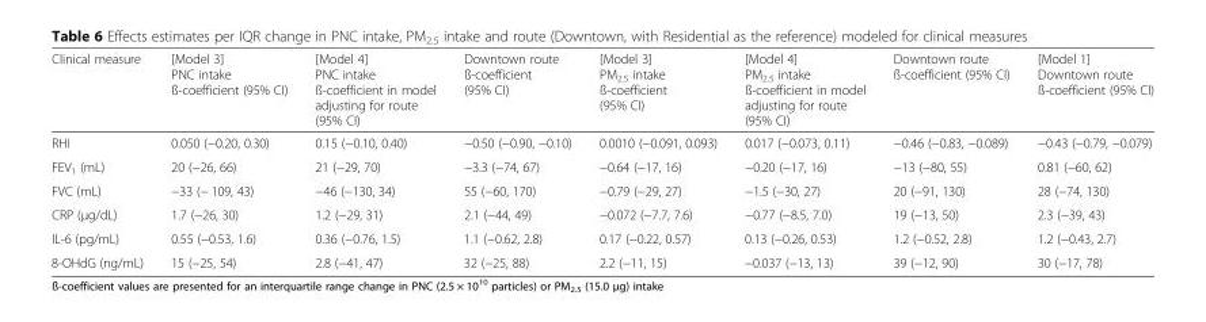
<table><thead><tr><td>Clinical measure</td><td>[Model 3] PNC intake ß-coefficient (95% CI)</td><td>[Model 4] PNC intake ß-coefficient in model adjusting for route (95% CI)</td><td>Downtown route ß-coefficient (95% CI)</td><td>[Model 3] PM<sub>2.5</sub> intake ß-coefficient (95% CI)</td><td>[Model 4] PM<sub>2.5</sub> intake ß-coefficient in model adjusting for route (95% CI)</td><td>Downtown route ß-coefficient (95% CI)</td><td>[Model 1] Downtown route ß-coefficient (95% CI)</td></tr></thead><tbody><tr><td>RHI</td><td>0.050 (−0.20, 0.30)</td><td>0.15 (−0.10, 0.40)</td><td>−0.50 (−0.90, −0.10)</td><td>0.0010 (−0.091, 0.093)</td><td>0.017 (−0.073, 0.11)</td><td>−0.46 (−0.83, −0.089)</td><td>−0.43 (−0.79, −0.079)</td></tr><tr><td>FEV<sub>1</sub> (mL)</td><td>20 (−26, 66)</td><td>21 (−29, 70)</td><td>−3.3 (−74, 67)</td><td>−0.64 (−17, 16)</td><td>−0.20 (−17, 16)</td><td>−13 (−80, 55)</td><td>0.81 (−60, 62)</td></tr><tr><td>FVC (mL)</td><td>−33 (− 109, 43)</td><td>−46 (−130, 34)</td><td>55 (−60, 170)</td><td>−0.79 (−29, 27)</td><td>−1.5 (−30, 27)</td><td>20 (−91, 130)</td><td>28 (−74, 130)</td></tr><tr><td>CRP (μg/dL)</td><td>1.7 (−26, 30)</td><td>1.2 (−29, 31)</td><td>2.1 (−44, 49)</td><td>−0.072 (−7.7, 7.6)</td><td>−0.77 (−8.5, 7.0)</td><td>19 (−13, 50)</td><td>2.3 (−39, 43)</td></tr><tr><td>IL-6 (pg/mL)</td><td>0.55 (−0.53, 1.6)</td><td>0.36 (−0.76, 1.5)</td><td>1.1 (−0.62, 2.8)</td><td>0.17 (−0.22, 0.57)</td><td>0.13 (−0.26, 0.53)</td><td>1.2 (−0.52, 2.8)</td><td>1.2 (−0.43, 2.7)</td></tr><tr><td>8-OHdG (ng/mL)</td><td>15 (−25, 54)</td><td>2.8 (−41, 47)</td><td>32 (−25, 88)</td><td>2.2 (−11, 15)</td><td>−0.037 (−13, 13)</td><td>39 (−12, 90)</td><td>30 (−17, 78)</td></tr></tbody></table>